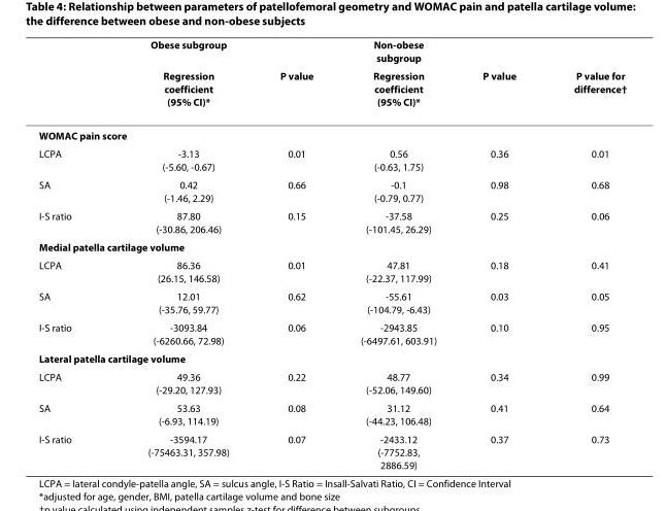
<table><thead><tr><td rowspan="2"></td><td rowspan="2">Obese subgroup Regression coefficient (95% CI)*</td><td rowspan="2">P value</td><td rowspan="2">Non-obese subgroup Regression coefficient (95% CI)*</td><td rowspan="2">P value</td><td rowspan="2">P value for difference†</td></tr><tr></tr></thead><tbody><tr><td colspan="6">WOMAC pain score</td></tr><tr><td>LCPA</td><td>-3.13 (-5.60, -0.67)</td><td>0.01</td><td>0.56 (-0.63, 1.75)</td><td>0.36</td><td>0.01</td></tr><tr><td>SA</td><td>0.42 (-1.46, 2.29)</td><td>0.66</td><td>-0.1 (-0.79, 0.77)</td><td>0.98</td><td>0.68</td></tr><tr><td>I-S ratio</td><td>87.80 (-30.86, 206.46)</td><td>0.15</td><td>-37.58 (-101.45, 26.29)</td><td>0.25</td><td>0.06</td></tr><tr><td colspan="6">Medial patella cartilage volume</td></tr><tr><td>LCPA</td><td>86.36 (26.15, 146.58)</td><td>0.01</td><td>47.81 (-22.37, 117.99)</td><td>0.18</td><td>0.41</td></tr><tr><td>SA</td><td>12.01 (-35.76, 59.77)</td><td>0.62</td><td>-55.61 (-104.79, -6.43)</td><td>0.03</td><td>0.05</td></tr><tr><td>I-S ratio</td><td>-3093.84 (-6260.66, 72.98)</td><td>0.06</td><td>-2943.85 (-6497.61, 603.91)</td><td>0.10</td><td>0.95</td></tr><tr><td colspan="6">Lateral patella cartilage volume</td></tr><tr><td>LCPA</td><td>49.36 (-29.20, 127.93)</td><td>0.22</td><td>48.77 (-52.06, 149.60)</td><td>0.34</td><td>0.99</td></tr><tr><td>SA</td><td>53.63 (-6.93, 114.19)</td><td>0.08</td><td>31.12 (-44.23, 106.48)</td><td>0.41</td><td>0.64</td></tr><tr><td>I-S ratio</td><td>-3594.17 (-75463.31, 357.98)</td><td>0.07</td><td>-2433.12 (-7752.83, 2886.59)</td><td>0.37</td><td>0.73</td></tr></tbody></table>